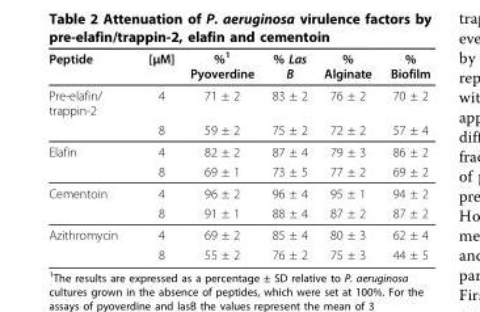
<table><thead><tr><td>Peptide</td><td>[μM]</td><td>%<sup>1</sup> Pyoverdine</td><td>% Las B</td><td>% Alginate</td><td>% Biofilm</td></tr></thead><tbody><tr><td rowspan="2">Pre-elafin/ trappin-2</td><td>4</td><td>71 ± 2</td><td>83 ± 2</td><td>76 ± 2</td><td>70 ± 2</td></tr><tr><td>8</td><td>59 ± 2</td><td>75 ± 2</td><td>72 ± 2</td><td>57 ± 4</td></tr><tr><td rowspan="2">Elafin</td><td>4</td><td>82 ± 2</td><td>87 ± 4</td><td>79 ± 3</td><td>86 ± 2</td></tr><tr><td>8</td><td>69 ± 1</td><td>73 ± 5</td><td>77 ± 2</td><td>69 ± 2</td></tr><tr><td rowspan="2">Cementoin</td><td>4</td><td>96 ± 2</td><td>96 ± 4</td><td>95 ± 1</td><td>94 ± 2</td></tr><tr><td>8</td><td>91 ± 1</td><td>88 ± 4</td><td>87 ± 2</td><td>87 ± 2</td></tr><tr><td rowspan="2">Azithromycin</td><td>4</td><td>69 ± 2</td><td>85 ± 4</td><td>80 ± 3</td><td>62 ± 4</td></tr><tr><td>8</td><td>55 ± 2</td><td>76 ± 2</td><td>75 ± 3</td><td>44 ± 5</td></tr></tbody></table>